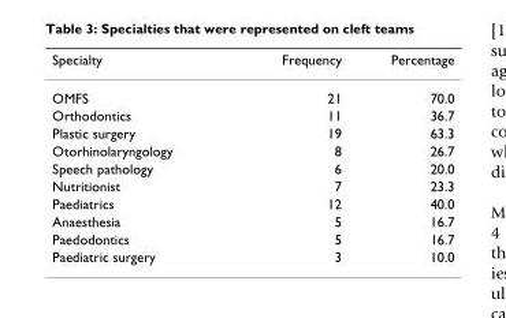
<table><thead><tr><td>Specialty</td><td>Frequency</td><td>Percentage</td></tr></thead><tbody><tr><td>OMFS</td><td>21</td><td>70.0</td></tr><tr><td>Orthodontics</td><td>11</td><td>36.7</td></tr><tr><td>Plastic surgery</td><td>19</td><td>63.3</td></tr><tr><td>Otorhinolaryngology</td><td>8</td><td>26.7</td></tr><tr><td>Speech pathology</td><td>6</td><td>20.0</td></tr><tr><td>Nutritionist</td><td>7</td><td>23.3</td></tr><tr><td>Paediatrics</td><td>12</td><td>40.0</td></tr><tr><td>Anaesthesia</td><td>5</td><td>16.7</td></tr><tr><td>Paedodontics</td><td>5</td><td>16.7</td></tr><tr><td>Paediatric surgery</td><td>3</td><td>10.0</td></tr></tbody></table>